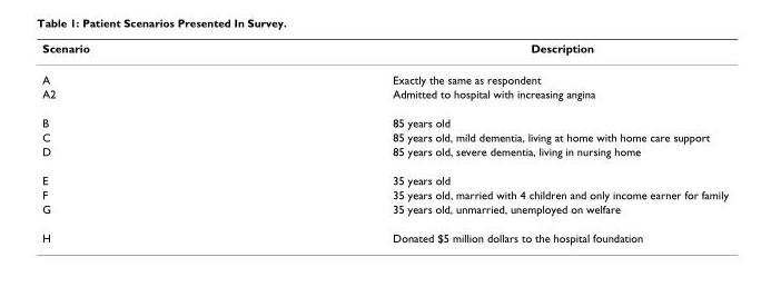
<table><thead><tr><td>Scenario</td><td>Description</td></tr></thead><tbody><tr><td>A</td><td>Exactly the same as respondent</td></tr><tr><td>A2</td><td>Admitted to hospital with increasing angina</td></tr><tr><td>B</td><td>85 years old</td></tr><tr><td>C</td><td>85 years old, mild dementia, living at home with home care support</td></tr><tr><td>D</td><td>85 years old, severe dementia, living in nursing home</td></tr><tr><td>E</td><td>35 years old</td></tr><tr><td>F</td><td>35 years old, married with 4 children and only income earner for family</td></tr><tr><td>G</td><td>35 years old, unmarried, unemployed on welfare</td></tr><tr><td>H</td><td>Donated $5 million dollars to the hospital foundation</td></tr></tbody></table>